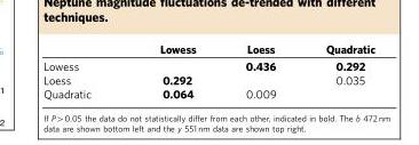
<table><thead><tr><td></td><td>Lowess</td><td>Loess</td><td>Quadratic</td></tr></thead><tbody><tr><td>Lowess</td><td></td><td>0.436</td><td>0.292</td></tr><tr><td>Loess</td><td>0.292</td><td></td><td>0.035</td></tr><tr><td>Quadratic</td><td>0.064</td><td>0.009</td><td></td></tr></tbody></table>